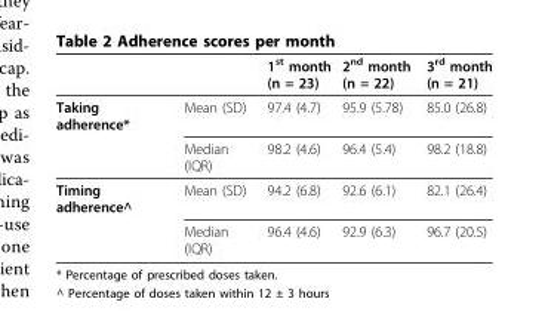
<table><thead><tr><td></td><td></td><td>1<sup>st</sup> month (n = 23)</td><td>2<sup>nd</sup> month (n = 22)</td><td>3<sup>rd</sup> month (n = 21)</td></tr></thead><tbody><tr><td rowspan="2">Taking adherence*</td><td>Mean (SD)</td><td>97.4 (4.7)</td><td>95.9 (5.78)</td><td>85.0 (26.8)</td></tr><tr><td>Median (IQR)</td><td>98.2 (4.6)</td><td>96.4 (5.4)</td><td>98.2 (18.8)</td></tr><tr><td rowspan="2">Timing adherence^</td><td>Mean (SD)</td><td>94.2 (6.8)</td><td>92.6 (6.1)</td><td>82.1 (26.4)</td></tr><tr><td>Median (IQR)</td><td>96.4 (4.6)</td><td>92.9 (6.3)</td><td>96.7 (20.5)</td></tr></tbody></table>